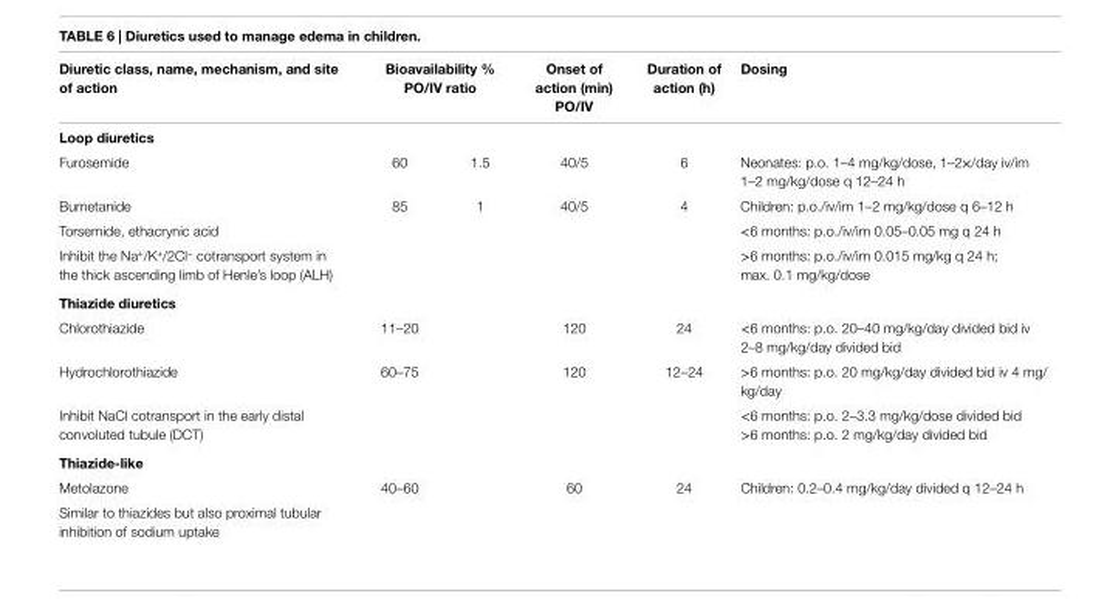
<table><thead><tr><td>Diuretic class, name, mechanism, and site of action</td><td colspan="2">Bioavailability % PO/iv ratio</td><td>Onset of action (min) PO/iv</td><td>Duration of action (h)</td><td>Dosing</td></tr><tr><td colspan="6">Loop diuretics</td></tr><tr><td>Furosemide</td><td>60</td><td>1.5</td><td>40/5</td><td>6</td><td>Neonates: p.o. 1–4 mg/kg/dose, 1–2×/day iv/im 1–2 mg/kg/dose q 12–24 h</td></tr></thead><tbody><tr><td>Bumetanide</td><td>85</td><td>1</td><td>40/5</td><td>4</td><td>Children: p.o./iv/im 1–2 mg/kg/dose q 6–12 h</td></tr><tr><td>Torsemide, ethacrynic acid</td><td></td><td></td><td></td><td></td><td>&lt;6 months: p.o./iv/im 0.05–0.05 mg q 24 h</td></tr><tr><td>Inhibit the Na<sup>+</sup>/K<sup>+</sup>/2Cl<sup>−</sup> cotransport system in the thick ascending limb of Henle’s loop (ALH)</td><td></td><td></td><td></td><td></td><td>&gt;6 months: p.o./iv/im 0.015 mg/kg q 24 h; max. 0.1 mg/kg/dose</td></tr><tr><td colspan="6">Thiazide diuretics</td></tr><tr><td>Chlorothiazide</td><td>11–20</td><td></td><td>120</td><td>24</td><td>&lt;6 months: p.o. 20–40 mg/kg/day divided bid iv 2–8 mg/kg/day divided bid</td></tr><tr><td>Hydrochlorothiazide</td><td>60–75</td><td></td><td>120</td><td>12–24</td><td>&gt;6 months: p.o. 20 mg/kg/day divided bid iv 4 mg/ kg/day</td></tr><tr><td>Inhibit NaCl cotransport in the early distal convoluted tubule (DCT)</td><td></td><td></td><td></td><td></td><td>&lt;6 months: p.o. 2–3.3 mg/kg/dose divided bid &gt;6 months: p.o. 2 mg/kg/day divided bid</td></tr><tr><td colspan="6">Thiazide-like</td></tr><tr><td>Metolazone</td><td>40–60</td><td></td><td>60</td><td>24</td><td>Children: 0.2–0.4 mg/kg/day divided q 12–24 h</td></tr><tr><td>Similar to thiazides but also proximal tubular inhibition of sodium uptake</td><td></td><td></td><td></td><td></td><td></td></tr></tbody></table>